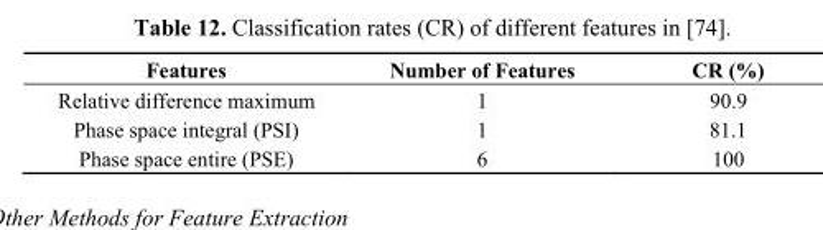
<table><thead><tr><td>Features</td><td>Number of Features</td><td>CR (%)</td></tr></thead><tbody><tr><td>Relative difference maximum</td><td>1</td><td>90.9</td></tr><tr><td>Phase space integral (PSI)</td><td>1</td><td>81.1</td></tr><tr><td>Phase space entire (PSE)</td><td>6</td><td>100</td></tr></tbody></table>